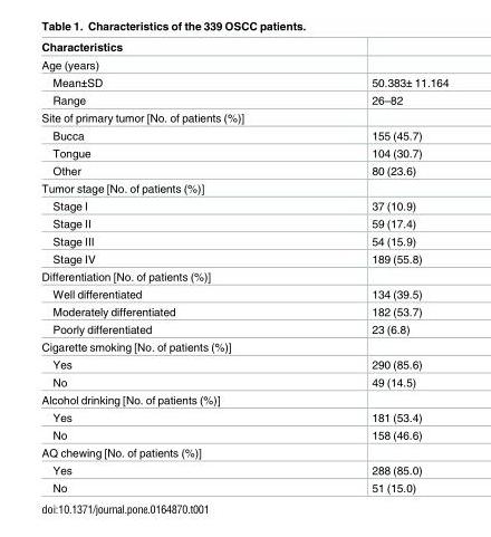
<table><thead><tr><td>Characteristics</td><td></td></tr></thead><tbody><tr><td colspan="2">Age (years)</td></tr><tr><td>Mean±SD</td><td>50.383± 11.164</td></tr><tr><td>Range</td><td>26–82</td></tr><tr><td colspan="2">Site of primary tumor [No. of patients (%)]</td></tr><tr><td>Bucca</td><td>155 (45.7)</td></tr><tr><td>Tongue</td><td>104 (30.7)</td></tr><tr><td>Other</td><td>80 (23.6)</td></tr><tr><td colspan="2">Tumor stage [No. of patients (%)]</td></tr><tr><td>Stage I</td><td>37 (10.9)</td></tr><tr><td>Stage II</td><td>59 (17.4)</td></tr><tr><td>Stage III</td><td>54 (15.9)</td></tr><tr><td>Stage IV</td><td>189 (55.8)</td></tr><tr><td colspan="2">Differentiation [No. of patients (%)]</td></tr><tr><td>Well differentiated</td><td>134 (39.5)</td></tr><tr><td>Moderately differentiated</td><td>182 (53.7)</td></tr><tr><td>Poorly differentiated</td><td>23 (6.8)</td></tr><tr><td colspan="2">Cigarette smoking [No. of patients (%)]</td></tr><tr><td>Yes</td><td>290 (85.6)</td></tr><tr><td>No</td><td>49 (14.5)</td></tr><tr><td colspan="2">Alcohol drinking [No. of patients (%)]</td></tr><tr><td>Yes</td><td>181 (53.4)</td></tr><tr><td>No</td><td>158 (46.6)</td></tr><tr><td colspan="2">AQ chewing [No. of patients (%)]</td></tr><tr><td>Yes</td><td>288 (85.0)</td></tr><tr><td>No</td><td>51 (15.0)</td></tr></tbody></table>